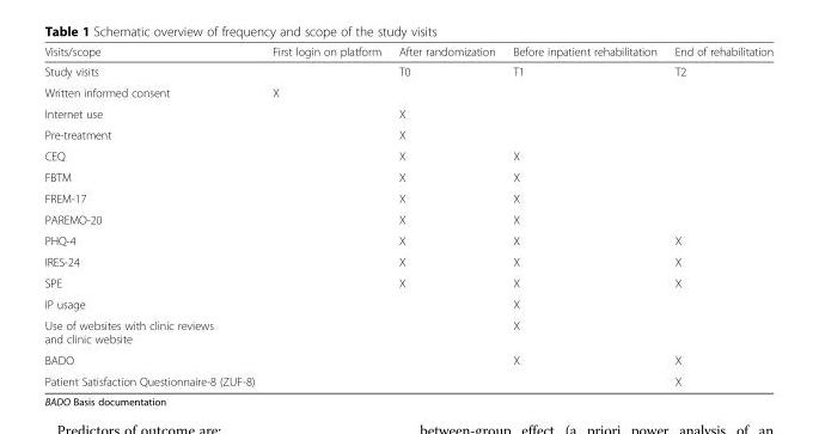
<table><thead><tr><td>Visits/scope</td><td>First login on platform</td><td>After randomization</td><td>Before inpatient rehabilitation</td><td>End of rehabilitation</td></tr></thead><tbody><tr><td>Study visits</td><td></td><td>T0</td><td>T1</td><td>T2</td></tr><tr><td>Written informed consent</td><td>X</td><td></td><td></td><td></td></tr><tr><td>Internet use</td><td></td><td>X</td><td></td><td></td></tr><tr><td>Pre-treatment</td><td></td><td>X</td><td></td><td></td></tr><tr><td>CEQ</td><td></td><td>X</td><td>X</td><td></td></tr><tr><td>FBTM</td><td></td><td>X</td><td>X</td><td></td></tr><tr><td>FREM-17</td><td></td><td>X</td><td>X</td><td></td></tr><tr><td>PAREMO-20</td><td></td><td>X</td><td>X</td><td></td></tr><tr><td>PHQ-4</td><td></td><td>X</td><td>X</td><td>X</td></tr><tr><td>IRES-24</td><td></td><td>X</td><td>X</td><td>X</td></tr><tr><td>SPE</td><td></td><td>X</td><td>X</td><td>X</td></tr><tr><td>IP usage</td><td></td><td></td><td>X</td><td></td></tr><tr><td>Use of websites with clinic reviews and clinic website</td><td></td><td></td><td>X</td><td></td></tr><tr><td>BADO</td><td></td><td></td><td>X</td><td>X</td></tr><tr><td>Patient Satisfaction Questionnaire-8 (ZUF-8)</td><td></td><td></td><td></td><td>X</td></tr></tbody></table>